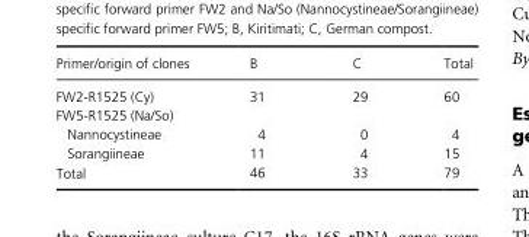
<table><thead><tr><td>Primer/origin of clones</td><td>B</td><td>C</td><td>Total</td></tr></thead><tbody><tr><td>FW2- R1525 (Cy)</td><td>31</td><td>29</td><td>60</td></tr><tr><td colspan="4">FW5- R1525 (Na/So)</td></tr><tr><td>Nannocystineae</td><td>4</td><td>0</td><td>4</td></tr><tr><td>Sorangiineae</td><td>11</td><td>4</td><td>15</td></tr><tr><td>Total</td><td>46</td><td>33</td><td>79</td></tr></tbody></table>